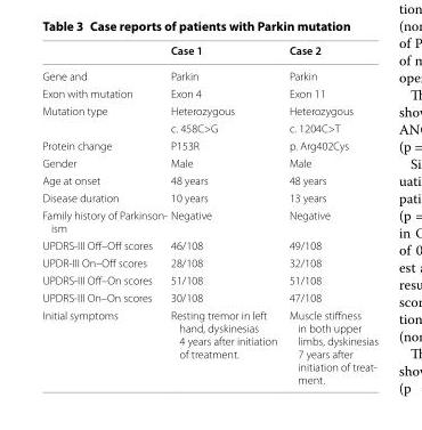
<table><thead><tr><td></td><td>Case 1</td><td>Case 2</td></tr></thead><tbody><tr><td>Gene and</td><td>Parkin</td><td>Parkin</td></tr><tr><td>Exon with mutation</td><td>Exon 4</td><td>Exon 11</td></tr><tr><td rowspan="2">Mutation type</td><td>Heterozygous</td><td>Heterozygous</td></tr><tr><td>c. 458C&gt;G</td><td>c. 1204C&gt;T</td></tr><tr><td>Protein change</td><td>P153R</td><td>p. Arg402Cys</td></tr><tr><td>Gender</td><td>Male</td><td>Male</td></tr><tr><td>Age at onset</td><td>48 years</td><td>48 years</td></tr><tr><td>Disease duration</td><td>10 years</td><td>13 years</td></tr><tr><td>Family history of Parkinson- ism</td><td>Negative</td><td>Negative</td></tr><tr><td>UPDRS-III Off–Off scores</td><td>46/108</td><td>49/108</td></tr><tr><td>UPDR-III On–Off scores</td><td>28/108</td><td>32/108</td></tr><tr><td>UPDRS-III Off–On scores</td><td>51/108</td><td>51/108</td></tr><tr><td>UPDRS-III On–On scores</td><td>30/108</td><td>47/108</td></tr><tr><td>Initial symptoms</td><td>Resting tremor in left hand, dyskinesias 4 years after initiation of treatment.</td><td>Muscle stiffness in both upper limbs, dyskinesias 7 years after initiation of treat- ment.</td></tr></tbody></table>